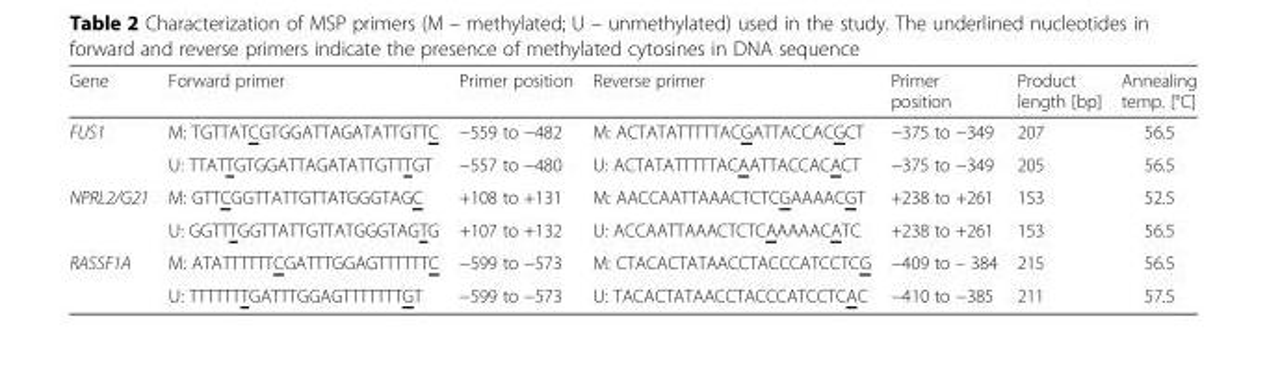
<table><thead><tr><td>Gene</td><td>Forward primer</td><td>Primer position</td><td>Reverse primer</td><td>Primer position</td><td>Product length [bp]</td><td>Annealing temp. [°C]</td></tr></thead><tbody><tr><td rowspan="2">FUS1</td><td>M: TGTTATCGTGGATTAGATATTGTTC</td><td>−559 to −482</td><td>M: ACTATATTTTTACGATTACCACGCT</td><td>−375 to −349</td><td>207</td><td>56.5</td></tr><tr><td>U: TTATTGTGGATTAGATATTGTTTGT</td><td>−557 to −480</td><td>U: ACTATATTTTTACAATTACCACACT</td><td>−375 to −349</td><td>205</td><td>56.5</td></tr><tr><td rowspan="2">NPRL2/G21</td><td>M: GTTCGGTTATTGTTATGGGTAGC</td><td>+108 to +131</td><td>M: AACCAATTAAACTCTCGAAAACGT</td><td>+238 to +261</td><td>153</td><td>52.5</td></tr><tr><td>U: GGTTTGGTTATTGTTATGGGTAGTG</td><td>+107 to +132</td><td>U: ACCAATTAAACTCTCAAAAACATC</td><td>+238 to +261</td><td>153</td><td>56.5</td></tr><tr><td rowspan="2">RASSF1A</td><td>M: ATATTTTTTCGATTTGGAGTTTTTTC</td><td>−599 to −573</td><td>M: CTACACTATAACCTACCCATCCTCG</td><td>−409 to – 384</td><td>215</td><td>56.5</td></tr><tr><td>U: TTTTTTTGATTTGGAGTTTTTTTGT</td><td>−599 to −573</td><td>U: TACACTATAACCTACCCATCCTCAC</td><td>−410 to −385</td><td>211</td><td>57.5</td></tr></tbody></table>